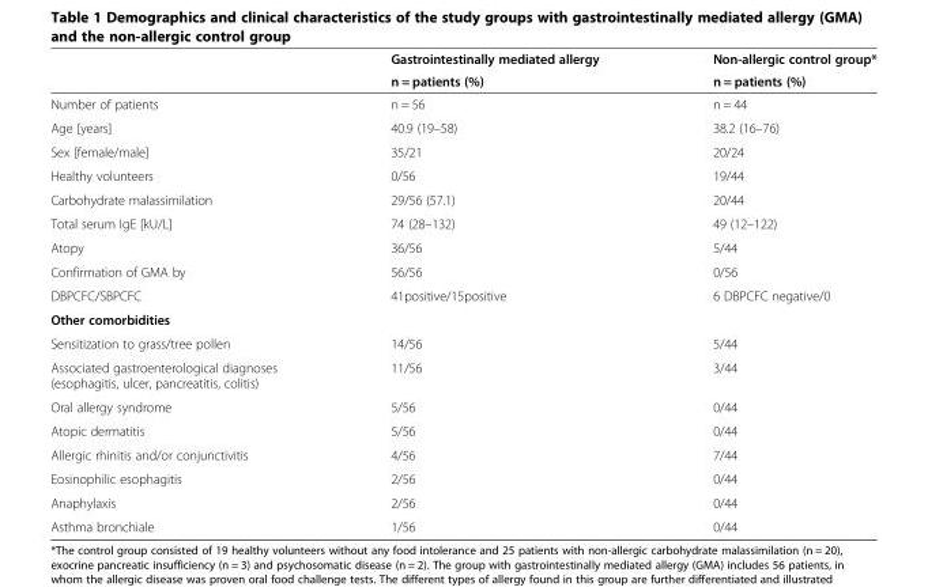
<table><thead><tr><td rowspan="2"></td><td rowspan="2">Gastrointestinally mediated allergy n = patients (%)</td><td rowspan="2">Non-allergic control group* n = patients (%)</td></tr><tr></tr></thead><tbody><tr><td>Number of patients</td><td>n = 56</td><td>n = 44</td></tr><tr><td>Age [years]</td><td>40.9 (19–58)</td><td>38.2 (16–76)</td></tr><tr><td>Sex [female/male]</td><td>35/21</td><td>20/24</td></tr><tr><td>Healthy volunteers</td><td>0/56</td><td>19/44</td></tr><tr><td>Carbohydrate malassimilation</td><td>29/56 (57.1)</td><td>20/44</td></tr><tr><td>Total serum IgE [kU/L]</td><td>74 (28–132)</td><td>49 (12–122)</td></tr><tr><td>Atopy</td><td>36/56</td><td>5/44</td></tr><tr><td>Confirmation of GMA by</td><td>56/56</td><td>0/56</td></tr><tr><td>DBPCFC/SBPCFC</td><td>41positive/15positive</td><td>6 DBPCFC negative/0</td></tr><tr><td colspan="3">Other comorbidities</td></tr><tr><td>Sensitization to grass/tree pollen</td><td>14/56</td><td>5/44</td></tr><tr><td>Associated gastroenterological diagnoses (esophagitis, ulcer, pancreatitis, colitis)</td><td>11/56</td><td>3/44</td></tr><tr><td>Oral allergy syndrome</td><td>5/56</td><td>0/44</td></tr><tr><td>Atopic dermatitis</td><td>5/56</td><td>0/44</td></tr><tr><td>Allergic rhinitis and/or conjunctivitis</td><td>4/56</td><td>7/44</td></tr><tr><td>Eosinophilic esophagitis</td><td>2/56</td><td>0/44</td></tr><tr><td>Anaphylaxis</td><td>2/56</td><td>0/44</td></tr><tr><td>Asthma bronchiale</td><td>1/56</td><td>0/44</td></tr></tbody></table>